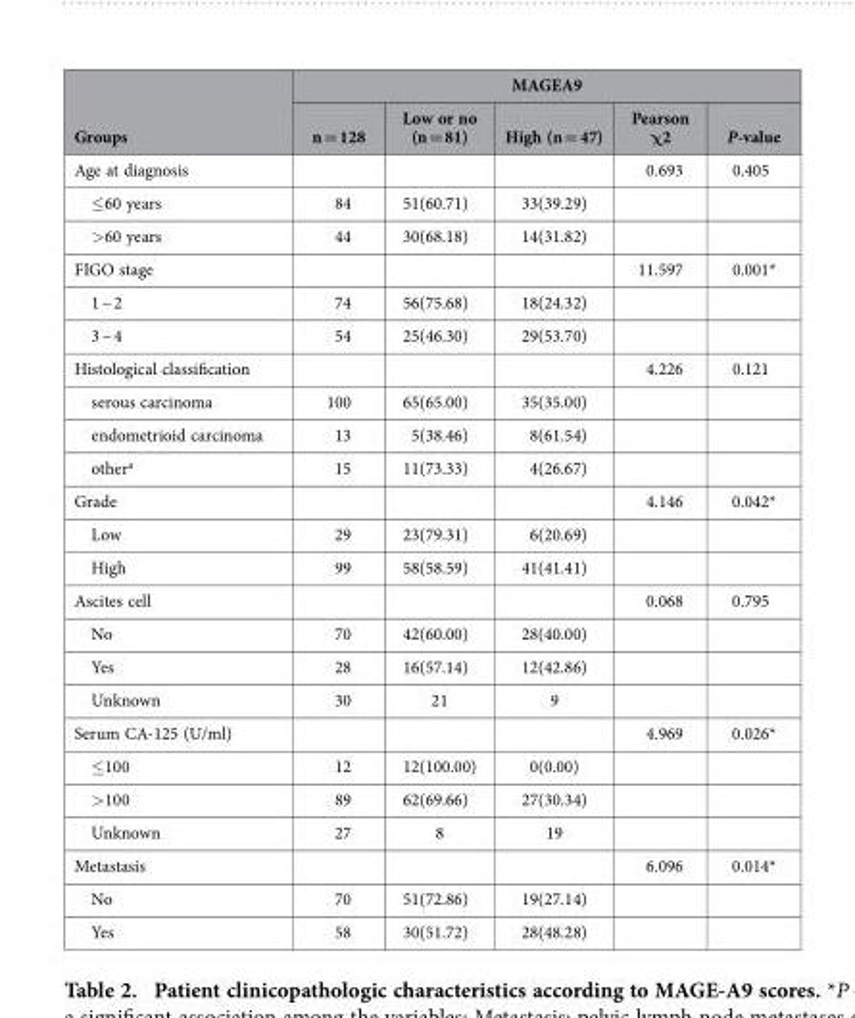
<table><thead><tr><td rowspan="2">Groups</td><td colspan="5">MAGEA9</td></tr><tr><td>n = 128</td><td>Low or no (n = 81)</td><td>High (n = 47)</td><td>Pearson χ2</td><td>P-value</td></tr></thead><tbody><tr><td>Age at diagnosis</td><td></td><td></td><td></td><td>0.693</td><td>0.405</td></tr><tr><td>≤60 years</td><td>84</td><td>51(60.71)</td><td>33(39.29)</td><td></td><td></td></tr><tr><td>&gt;60 years</td><td>44</td><td>30(68.18)</td><td>14(31.82)</td><td></td><td></td></tr><tr><td>FIGO stage</td><td></td><td></td><td></td><td>11.597</td><td>0.001*</td></tr><tr><td>1 ~ 2</td><td>74</td><td>56(75.68)</td><td>18(24.32)</td><td></td><td></td></tr><tr><td>3 ~ 4</td><td>54</td><td>25(46.30)</td><td>29(53.70)</td><td></td><td></td></tr><tr><td>Histological classification</td><td></td><td></td><td></td><td>4.226</td><td>0.121</td></tr><tr><td>serous carcinoma</td><td>100</td><td>65(65.00)</td><td>35(35.00)</td><td></td><td></td></tr><tr><td>endometrioid carcinoma</td><td>13</td><td>5(38.46)</td><td>8(61.54)</td><td></td><td></td></tr><tr><td>other<sup>a</sup></td><td>15</td><td>11(73.33)</td><td>4(26.67)</td><td></td><td></td></tr><tr><td>Grade</td><td></td><td></td><td></td><td>4.146</td><td>0.042*</td></tr><tr><td>Low</td><td>29</td><td>23(79.31)</td><td>6(20.69)</td><td></td><td></td></tr><tr><td>High</td><td>99</td><td>58(58.59)</td><td>41(41.41)</td><td></td><td></td></tr><tr><td>Ascites cell</td><td></td><td></td><td></td><td>0.068</td><td>0.795</td></tr><tr><td>No</td><td>70</td><td>42(60.00)</td><td>28(40.00)</td><td></td><td></td></tr><tr><td>Yes</td><td>28</td><td>16(57.14)</td><td>12(42.86)</td><td></td><td></td></tr><tr><td>Unknown</td><td>30</td><td>21</td><td>9</td><td></td><td></td></tr><tr><td>Serum CA-125 (U/ml)</td><td></td><td></td><td></td><td>4.969</td><td>0.026*</td></tr><tr><td>≤100</td><td>12</td><td>12(100.00)</td><td>0(0.00)</td><td></td><td></td></tr><tr><td>&gt;100</td><td>89</td><td>62(69.66)</td><td>27(30.34)</td><td></td><td></td></tr><tr><td>Unknown</td><td>27</td><td>8</td><td>19</td><td></td><td></td></tr><tr><td>Metastasis</td><td></td><td></td><td></td><td>6.096</td><td>0.014*</td></tr><tr><td>No</td><td>70</td><td>51(72.86)</td><td>19(27.14)</td><td></td><td></td></tr><tr><td>Yes</td><td>58</td><td>30(51.72)</td><td>28(48.28)</td><td></td><td></td></tr></tbody></table>